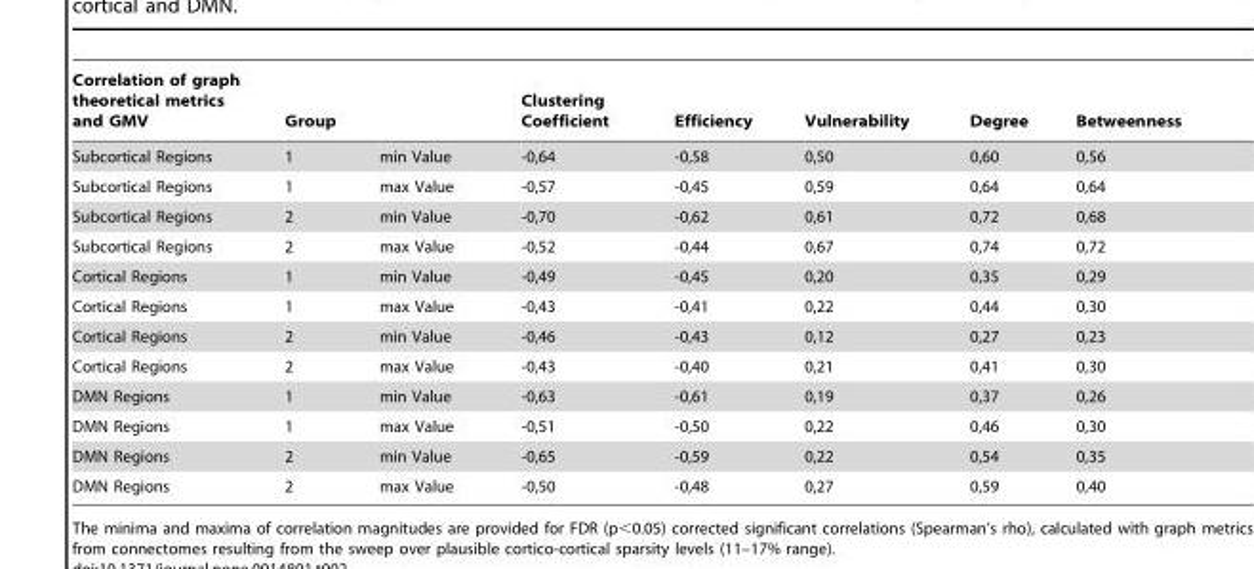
<table><thead><tr><td>Correlation of graph theoretical metrics and GMV</td><td>Group</td><td></td><td>Clustering Coefficient</td><td>Efficiency</td><td>Vulnerability</td><td>Degree</td><td>Betweenness</td></tr></thead><tbody><tr><td>Subcortical Regions</td><td>1</td><td>min Value</td><td>-0,64</td><td>-0,58</td><td>0,50</td><td>0,60</td><td>0,56</td></tr><tr><td>Subcortical Regions</td><td>1</td><td>max Value</td><td>-0,57</td><td>-0,45</td><td>0,59</td><td>0,64</td><td>0,64</td></tr><tr><td>Subcortical Regions</td><td>2</td><td>min Value</td><td>-0,70</td><td>-0,62</td><td>0,61</td><td>0,72</td><td>0,68</td></tr><tr><td>Subcortical Regions</td><td>2</td><td>max Value</td><td>-0,52</td><td>-0,44</td><td>0,67</td><td>0,74</td><td>0,72</td></tr><tr><td>Cortical Regions</td><td>1</td><td>min Value</td><td>-0,49</td><td>-0,45</td><td>0,20</td><td>0,35</td><td>0,29</td></tr><tr><td>Cortical Regions</td><td>1</td><td>max Value</td><td>-0,43</td><td>-0,41</td><td>0,22</td><td>0,44</td><td>0,30</td></tr><tr><td>Cortical Regions</td><td>2</td><td>min Value</td><td>-0,46</td><td>-0,43</td><td>0,12</td><td>0,27</td><td>0,23</td></tr><tr><td>Cortical Regions</td><td>2</td><td>max Value</td><td>-0,43</td><td>-0,40</td><td>0,21</td><td>0,41</td><td>0,30</td></tr><tr><td>DMN Regions</td><td>1</td><td>min Value</td><td>-0,63</td><td>-0,61</td><td>0,19</td><td>0,37</td><td>0,26</td></tr><tr><td>DMN Regions</td><td>1</td><td>max Value</td><td>-0,51</td><td>-0,50</td><td>0,22</td><td>0,46</td><td>0,30</td></tr><tr><td>DMN Regions</td><td>2</td><td>min Value</td><td>-0,65</td><td>-0,59</td><td>0,22</td><td>0,54</td><td>0,35</td></tr><tr><td>DMN Regions</td><td>2</td><td>max Value</td><td>-0,50</td><td>-0,48</td><td>0,27</td><td>0,59</td><td>0,40</td></tr></tbody></table>